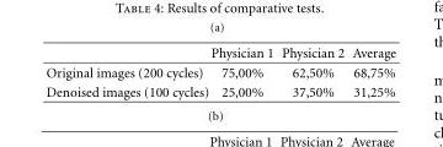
<table><thead><tr><td></td><td>Physician 1</td><td>Physician 2</td><td>Average</td></tr></thead><tbody><tr><td>Original images (200 cycles)</td><td>75,00%</td><td>62,50%</td><td>68,75%</td></tr><tr><td>Denoised images (100 cycles)</td><td>25,00%</td><td>37,50%</td><td>31,25%</td></tr></tbody></table>